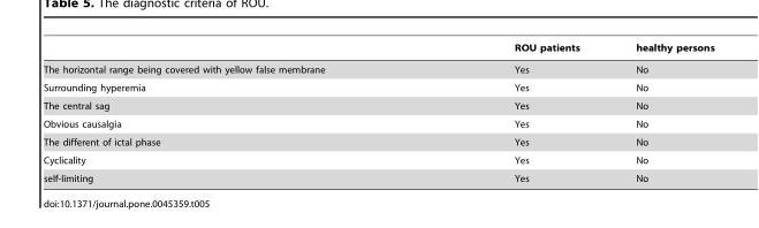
<table><thead><tr><td></td><td>ROU patients</td><td>healthy persons</td></tr></thead><tbody><tr><td>The horizontal range being covered with yellow false membrane</td><td>Yes</td><td>No</td></tr><tr><td>Surrounding hyperemia</td><td>Yes</td><td>No</td></tr><tr><td>The central sag</td><td>Yes</td><td>No</td></tr><tr><td>Obvious causalgia</td><td>Yes</td><td>No</td></tr><tr><td>The different of ictal phase</td><td>Yes</td><td>No</td></tr><tr><td>Cyclicality</td><td>Yes</td><td>No</td></tr><tr><td>self-limiting</td><td>Yes</td><td>No</td></tr></tbody></table>